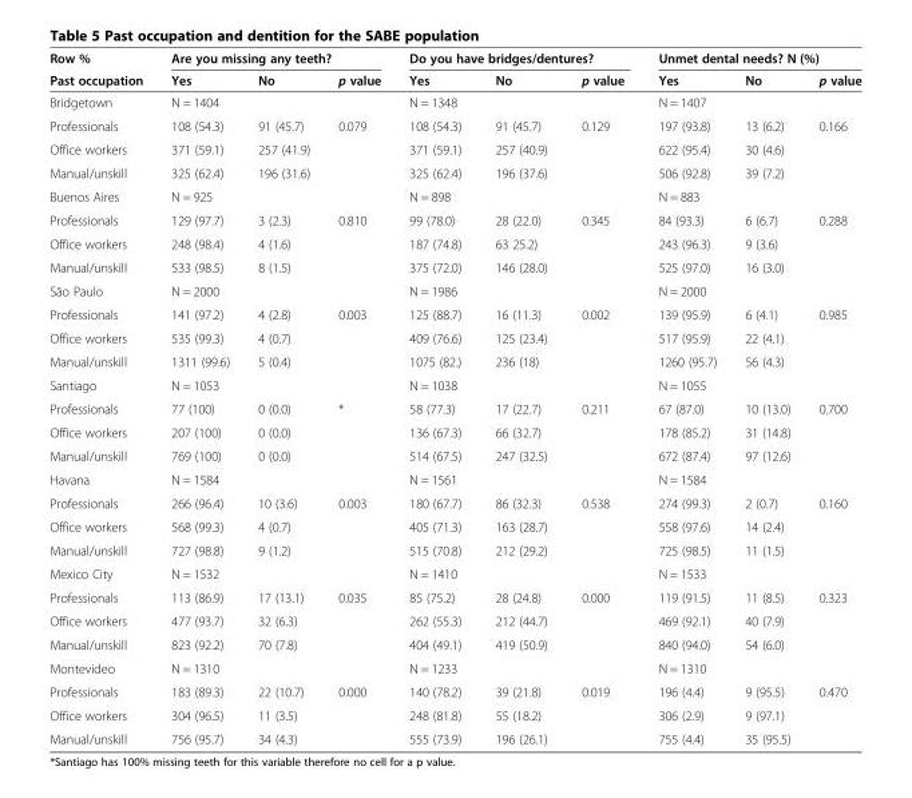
<table><thead><tr><td rowspan="2">Row % Past occupation</td><td colspan="3">Are you missing any teeth?</td><td colspan="3">Do you have bridges/dentures?</td><td colspan="3">Unmet dental needs? N (%)</td></tr><tr><td>Yes</td><td>No</td><td>p value</td><td>Yes</td><td>No</td><td>p value</td><td>Yes</td><td>No</td><td>p value</td></tr></thead><tbody><tr><td>Bridgetown</td><td colspan="2">N = 1404</td><td></td><td colspan="2">N = 1348</td><td></td><td colspan="3">N = 1407</td></tr><tr><td>Professionals</td><td>108 (54.3)</td><td>91 (45.7)</td><td>0.079</td><td>108 (54.3)</td><td>91 (45.7)</td><td>0.129</td><td>197 (93.8)</td><td>13 (6.2)</td><td>0.166</td></tr><tr><td>Office workers</td><td>371 (59.1)</td><td>257 (41.9)</td><td></td><td>371 (59.1)</td><td>257 (40.9)</td><td></td><td>622 (95.4)</td><td>30 (4.6)</td><td></td></tr><tr><td>Manual/unskill</td><td>325 (62.4)</td><td>196 (31.6)</td><td></td><td>325 (62.4)</td><td>196 (37.6)</td><td></td><td>506 (92.8)</td><td>39 (7.2)</td><td></td></tr><tr><td>Buenos Aires</td><td colspan="2">N = 925</td><td></td><td colspan="2">N = 898</td><td></td><td colspan="3">N = 883</td></tr><tr><td>Professionals</td><td>129 (97.7)</td><td>3 (2.3)</td><td>0.810</td><td>99 (78.0)</td><td>28 (22.0)</td><td>0.345</td><td>84 (93.3)</td><td>6 (6.7)</td><td>0.288</td></tr><tr><td>Office workers</td><td>248 (98.4)</td><td>4 (1.6)</td><td></td><td>187 (74.8)</td><td>63 25.2)</td><td></td><td>243 (96.3)</td><td>9 (3.6)</td><td></td></tr><tr><td>Manual/unskill</td><td>533 (98.5)</td><td>8 (1.5)</td><td></td><td>375 (72.0)</td><td>146 (28.0)</td><td></td><td>525 (97.0)</td><td>16 (3.0)</td><td></td></tr><tr><td>São Paulo</td><td colspan="2">N = 2000</td><td></td><td colspan="2">N = 1986</td><td></td><td colspan="3">N = 2000</td></tr><tr><td>Professionals</td><td>141 (97.2)</td><td>4 (2.8)</td><td>0.003</td><td>125 (88.7)</td><td>16 (11.3)</td><td>0.002</td><td>139 (95.9)</td><td>6 (4.1)</td><td>0.985</td></tr><tr><td>Office workers</td><td>535 (99.3)</td><td>4 (0.7)</td><td></td><td>409 (76.6)</td><td>125 (23.4)</td><td></td><td>517 (95.9)</td><td>22 (4.1)</td><td></td></tr><tr><td>Manual/unskill</td><td>1311 (99.6)</td><td>5 (0.4)</td><td></td><td>1075 (82.)</td><td>236 (18)</td><td></td><td>1260 (95.7)</td><td>56 (4.3)</td><td></td></tr><tr><td>Santiago</td><td colspan="2">N = 1053</td><td></td><td colspan="2">N = 1038</td><td></td><td colspan="3">N = 1055</td></tr><tr><td>Professionals</td><td>77 (100)</td><td>0 (0.0)</td><td>*</td><td>58 (77.3)</td><td>17 (22.7)</td><td>0.211</td><td>67 (87.0)</td><td>10 (13.0)</td><td>0.700</td></tr><tr><td>Office workers</td><td>207 (100)</td><td>0 (0.0)</td><td></td><td>136 (67.3)</td><td>66 (32.7)</td><td></td><td>178 (85.2)</td><td>31 (14.8)</td><td></td></tr><tr><td>Manual/unskill</td><td>769 (100)</td><td>0 (0.0)</td><td></td><td>514 (67.5)</td><td>247 (32.5)</td><td></td><td>672 (87.4)</td><td>97 (12.6)</td><td></td></tr><tr><td>Havana</td><td colspan="2">N = 1584</td><td></td><td colspan="2">N = 1561</td><td></td><td colspan="3">N = 1584</td></tr><tr><td>Professionals</td><td>266 (96.4)</td><td>10 (3.6)</td><td>0.003</td><td>180 (67.7)</td><td>86 (32.3)</td><td>0.538</td><td>274 (99.3)</td><td>2 (0.7)</td><td>0.160</td></tr><tr><td>Office workers</td><td>568 (99.3)</td><td>4 (0.7)</td><td></td><td>405 (71.3)</td><td>163 (28.7)</td><td></td><td>558 (97.6)</td><td>14 (2.4)</td><td></td></tr><tr><td>Manual/unskill</td><td>727 (98.8)</td><td>9 (1.2)</td><td></td><td>515 (70.8)</td><td>212 (29.2)</td><td></td><td>725 (98.5)</td><td>11 (1.5)</td><td></td></tr><tr><td>Mexico City</td><td colspan="2">N = 1532</td><td></td><td colspan="2">N = 1410</td><td></td><td colspan="3">N = 1533</td></tr><tr><td>Professionals</td><td>113 (86.9)</td><td>17 (13.1)</td><td>0.035</td><td>85 (75.2)</td><td>28 (24.8)</td><td>0.000</td><td>119 (91.5)</td><td>11 (8.5)</td><td>0.323</td></tr><tr><td>Office workers</td><td>477 (93.7)</td><td>32 (6.3)</td><td></td><td>262 (55.3)</td><td>212 (44.7)</td><td></td><td>469 (92.1)</td><td>40 (7.9)</td><td></td></tr><tr><td>Manual/unskill</td><td>823 (92.2)</td><td>70 (7.8)</td><td></td><td>404 (49.1)</td><td>419 (50.9)</td><td></td><td>840 (94.0)</td><td>54 (6.0)</td><td></td></tr><tr><td>Montevideo</td><td colspan="2">N = 1310</td><td></td><td colspan="2">N = 1233</td><td></td><td colspan="3">N = 1310</td></tr><tr><td>Professionals</td><td>183 (89.3)</td><td>22 (10.7)</td><td>0.000</td><td>140 (78.2)</td><td>39 (21.8)</td><td>0.019</td><td>196 (4.4)</td><td>9 (95.5)</td><td>0.470</td></tr><tr><td>Office workers</td><td>304 (96.5)</td><td>11 (3.5)</td><td></td><td>248 (81.8)</td><td>55 (18.2)</td><td></td><td>306 (2.9)</td><td>9 (97.1)</td><td></td></tr><tr><td>Manual/unskill</td><td>756 (95.7)</td><td>34 (4.3)</td><td></td><td>555 (73.9)</td><td>196 (26.1)</td><td></td><td>755 (4.4)</td><td>35 (95.5)</td><td></td></tr></tbody></table>